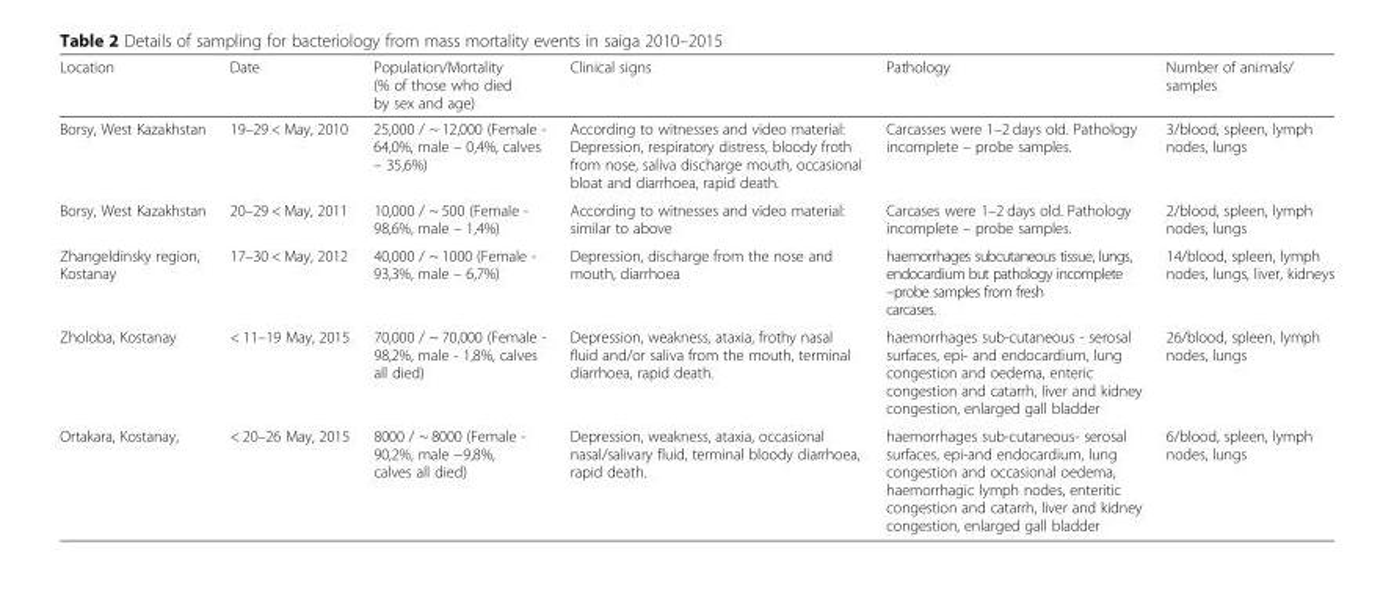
<table><thead><tr><td>Location</td><td>Date</td><td>Population/Mortality (% of those who died by sex and age)</td><td>Clinical signs</td><td>Pathology</td><td>Number of animals/ samples</td></tr></thead><tbody><tr><td>Borsy, West Kazakhstan</td><td>19–29 &lt; May, 2010</td><td>25,000 / ~ 12,000 (Female - 64,0%, male – 0,4%, calves – 35,6%)</td><td>According to witnesses and video material: Depression, respiratory distress, bloody froth from nose, saliva discharge mouth, occasional bloat and diarrhoea, rapid death.</td><td>Carcasses were 1–2 days old. Pathology incomplete – probe samples.</td><td>3/blood, spleen, lymph nodes, lungs</td></tr><tr><td>Borsy, West Kazakhstan</td><td>20–29 &lt; May, 2011</td><td>10,000 / ~ 500 (Female - 98,6%, male – 1,4%)</td><td>According to witnesses and video material: similar to above</td><td>Carcases were 1–2 days old. Pathology incomplete – probe samples.</td><td>2/blood, spleen, lymph nodes, lungs</td></tr><tr><td>Zhangeldinsky region, Kostanay</td><td>17–30 &lt; May, 2012</td><td>40,000 / ~ 1000 (Female - 93,3%, male – 6,7%)</td><td>Depression, discharge from the nose and mouth, diarrhoea</td><td>haemorrhages subcutaneous tissue, lungs, endocardium but pathology incomplete –probe samples from fresh carcases.</td><td>14/blood, spleen, lymph nodes, lungs, liver, kidneys</td></tr><tr><td>Zholoba, Kostanay</td><td>&lt; 11–19 May, 2015</td><td>70,000 / ~ 70,000 (Female - 98,2%, male - 1,8%, calves all died)</td><td>Depression, weakness, ataxia, frothy nasal fluid and/or saliva from the mouth, terminal diarrhoea, rapid death.</td><td>haemorrhages sub-cutaneous - serosal surfaces, epi- and endocardium, lung congestion and oedema, enteric congestion and catarrh, liver and kidney congestion, enlarged gall bladder</td><td>26/blood, spleen, lymph nodes, lungs</td></tr><tr><td>Ortakara, Kostanay,</td><td>&lt; 20–26 May, 2015</td><td>8000 / ~ 8000 (Female - 90,2%, male −9,8%, calves all died)</td><td>Depression, weakness, ataxia, occasional nasal/salivary fluid, terminal bloody diarrhoea, rapid death.</td><td>haemorrhages sub-cutaneous- serosal surfaces, epi-and endocardium, lung congestion and occasional oedema, haemorrhagic lymph nodes, enteritic congestion and catarrh, liver and kidney congestion, enlarged gall bladder</td><td>6/blood, spleen, lymph nodes, lungs</td></tr></tbody></table>